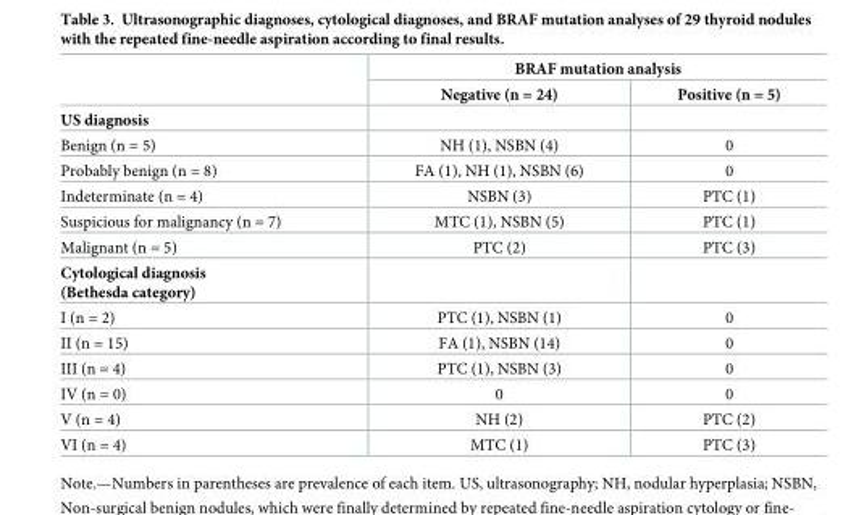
<table><thead><tr><td rowspan="2"></td><td colspan="2">BRAF mutation analysis</td></tr><tr><td>Negative (n = 24)</td><td>Positive (n = 5)</td></tr></thead><tbody><tr><td colspan="3">US diagnosis</td></tr><tr><td>Benign (n = 5)</td><td>NH (1), NSBN (4)</td><td>0</td></tr><tr><td>Probably benign (n = 8)</td><td>FA (1), NH (1), NSBN (6)</td><td>0</td></tr><tr><td>Indeterminate (n = 4)</td><td>NSBN (3)</td><td>PTC (1)</td></tr><tr><td>Suspicious for malignancy (n = 7)</td><td>MTC (1), NSBN (5)</td><td>PTC (1)</td></tr><tr><td>Malignant (n = 5)</td><td>PTC (2)</td><td>PTC (3)</td></tr><tr><td colspan="3">Cytological diagnosis (Bethesda category)</td></tr><tr><td>I (n = 2)</td><td>PTC (1), NSBN (1)</td><td>0</td></tr><tr><td>II (n = 15)</td><td>FA (1), NSBN (14)</td><td>0</td></tr><tr><td>III (n = 4)</td><td>PTC (1), NSBN (3)</td><td>0</td></tr><tr><td>IV (n = 0)</td><td>0</td><td>0</td></tr><tr><td>V (n = 4)</td><td>NH (2)</td><td>PTC (2)</td></tr><tr><td>VI (n = 4)</td><td>MTC (1)</td><td>PTC (3)</td></tr></tbody></table>